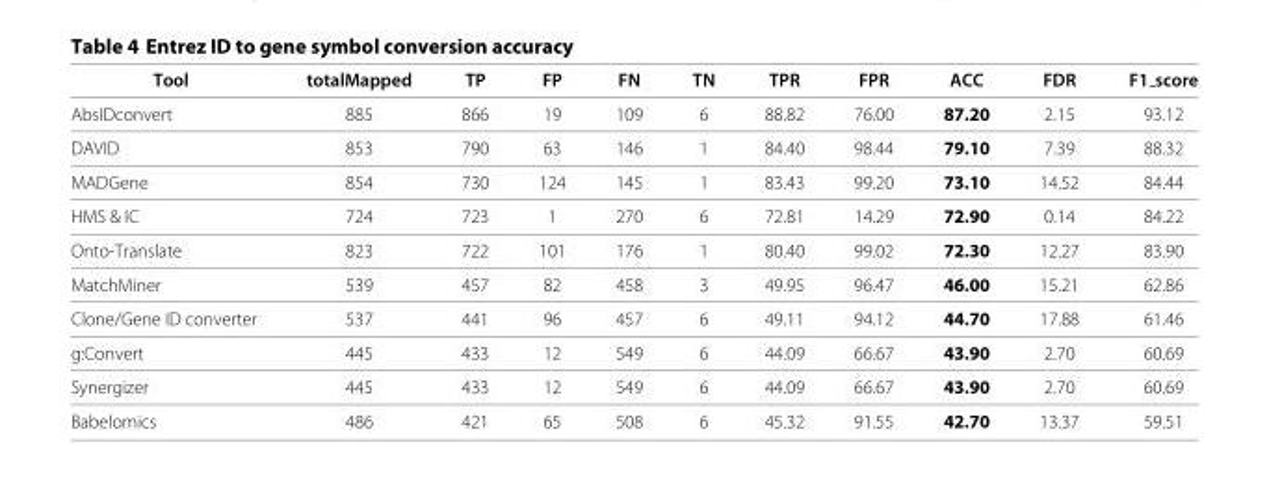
<table><thead><tr><td>Tool</td><td>totalMapped</td><td>TP</td><td>FP</td><td>FN</td><td>TN</td><td>TPR</td><td>FPR</td><td>ACC</td><td>FDR</td><td>F1 score</td></tr></thead><tbody><tr><td>AbsIDconvert</td><td>885</td><td>866</td><td>19</td><td>109</td><td>6</td><td>88.82</td><td>76.00</td><td>87.20</td><td>2.15</td><td>93.12</td></tr><tr><td>DAVID</td><td>853</td><td>790</td><td>63</td><td>146</td><td>1</td><td>84.40</td><td>98.44</td><td>79.10</td><td>7.39</td><td>88.32</td></tr><tr><td>MADGene</td><td>854</td><td>730</td><td>124</td><td>145</td><td>1</td><td>83.43</td><td>99.20</td><td>73.10</td><td>14.52</td><td>84.44</td></tr><tr><td>HMS &amp; IC</td><td>724</td><td>723</td><td>1</td><td>270</td><td>6</td><td>72.81</td><td>14.29</td><td>72.90</td><td>0.14</td><td>84.22</td></tr><tr><td>Onto-Translate</td><td>823</td><td>722</td><td>101</td><td>176</td><td>1</td><td>80.40</td><td>99.02</td><td>72.30</td><td>12.27</td><td>83.90</td></tr><tr><td>MatchMiner</td><td>539</td><td>457</td><td>82</td><td>458</td><td>3</td><td>49.95</td><td>96.47</td><td>46.00</td><td>15.21</td><td>62.86</td></tr><tr><td>Clone/Gene ID converter</td><td>537</td><td>441</td><td>96</td><td>457</td><td>6</td><td>49.11</td><td>94.12</td><td>44.70</td><td>17.88</td><td>61.46</td></tr><tr><td>g:Convert</td><td>445</td><td>433</td><td>12</td><td>549</td><td>6</td><td>44.09</td><td>66.67</td><td>43.90</td><td>2.70</td><td>60.69</td></tr><tr><td>Synergizer</td><td>445</td><td>433</td><td>12</td><td>549</td><td>6</td><td>44.09</td><td>66.67</td><td>43.90</td><td>2.70</td><td>60.69</td></tr><tr><td>Babelomics</td><td>486</td><td>421</td><td>65</td><td>508</td><td>6</td><td>45.32</td><td>91.55</td><td>42.70</td><td>13.37</td><td>59.51</td></tr></tbody></table>